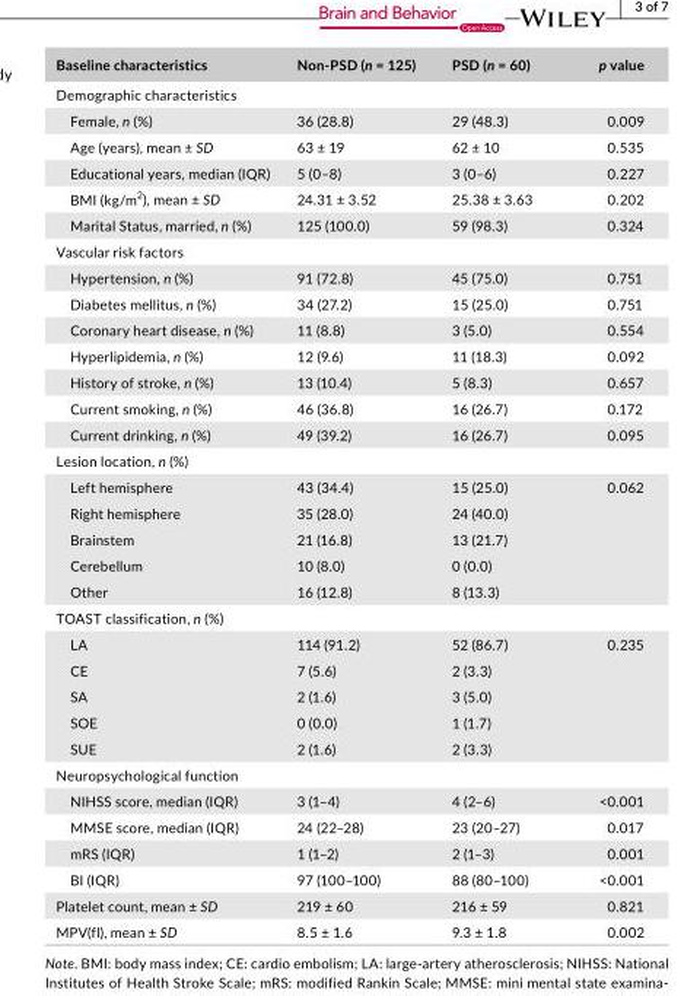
<table><thead><tr><td>Baseline characteristics</td><td>Non‐PSD (n = 125)</td><td>PSD (n = 60)</td><td>p value</td></tr></thead><tbody><tr><td colspan="4">Demographic characteristics</td></tr><tr><td>Female, n (%)</td><td>36 (28.8)</td><td>29 (48.3)</td><td>0.009</td></tr><tr><td>Age (years), mean ± SD</td><td>63 ± 19</td><td>62 ± 10</td><td>0.535</td></tr><tr><td>Educational years, median (IQR)</td><td>5 (0–8)</td><td>3 (0–6)</td><td>0.227</td></tr><tr><td>BMI (kg/m<sup>2</sup>), mean ± SD</td><td>24.31 ± 3.52</td><td>25.38 ± 3.63</td><td>0.202</td></tr><tr><td>Marital Status, married, n (%)</td><td>125 (100.0)</td><td>59 (98.3)</td><td>0.324</td></tr><tr><td colspan="4">Vascular risk factors</td></tr><tr><td>Hypertension, n (%)</td><td>91 (72.8)</td><td>45 (75.0)</td><td>0.751</td></tr><tr><td>Diabetes mellitus, n (%)</td><td>34 (27.2)</td><td>15 (25.0)</td><td>0.751</td></tr><tr><td>Coronary heart disease, n (%)</td><td>11 (8.8)</td><td>3 (5.0)</td><td>0.554</td></tr><tr><td>Hyperlipidemia, n (%)</td><td>12 (9.6)</td><td>11 (18.3)</td><td>0.092</td></tr><tr><td>History of stroke, n (%)</td><td>13 (10.4)</td><td>5 (8.3)</td><td>0.657</td></tr><tr><td>Current smoking, n (%)</td><td>46 (36.8)</td><td>16 (26.7)</td><td>0.172</td></tr><tr><td>Current drinking, n (%)</td><td>49 (39.2)</td><td>16 (26.7)</td><td>0.095</td></tr><tr><td colspan="4">Lesion location, n (%)</td></tr><tr><td>Left hemisphere</td><td>43 (34.4)</td><td>15 (25.0)</td><td rowspan="5">0.062</td></tr><tr><td>Right hemisphere</td><td>35 (28.0)</td><td>24 (40.0)</td></tr><tr><td>Brainstem</td><td>21 (16.8)</td><td>13 (21.7)</td></tr><tr><td>Cerebellum</td><td>10 (8.0)</td><td>0 (0.0)</td></tr><tr><td>Other</td><td>16 (12.8)</td><td>8 (13.3)</td></tr><tr><td colspan="4">TOAST classification, n (%)</td></tr><tr><td>LA</td><td>114 (91.2)</td><td>52 (86.7)</td><td>0.235</td></tr><tr><td>CE</td><td>7 (5.6)</td><td>2 (3.3)</td><td></td></tr><tr><td>SA</td><td>2 (1.6)</td><td>3 (5.0)</td><td></td></tr><tr><td>SOE</td><td>0 (0.0)</td><td>1 (1.7)</td><td></td></tr><tr><td>SUE</td><td>2 (1.6)</td><td>2 (3.3)</td><td></td></tr><tr><td colspan="4">Neuropsychological function</td></tr><tr><td>NIHSS score, median (IQR)</td><td>3 (1–4)</td><td>4 (2–6)</td><td>&lt;0.001</td></tr><tr><td>MMSE score, median (IQR)</td><td>24 (22–28)</td><td>23 (20–27)</td><td>0.017</td></tr><tr><td>mRS (IQR)</td><td>1 (1–2)</td><td>2 (1–3)</td><td>0.001</td></tr><tr><td>BI (IQR)</td><td>97 (100–100)</td><td>88 (80–100)</td><td>&lt;0.001</td></tr><tr><td>Platelet count, mean ± SD</td><td>219 ± 60</td><td>216 ± 59</td><td>0.821</td></tr><tr><td>MPV(fl), mean ± SD</td><td>8.5 ± 1.6</td><td>9.3 ± 1.8</td><td>0.002</td></tr></tbody></table>